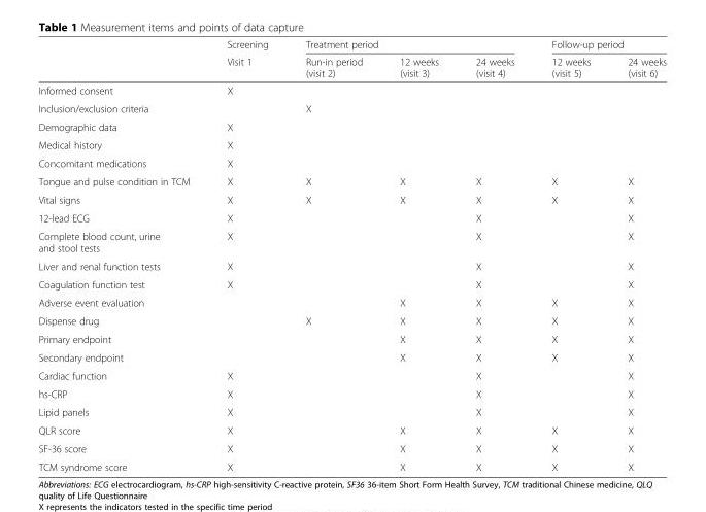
<table><thead><tr><td rowspan="2"></td><td rowspan="2">Screening Visit 1</td><td colspan="3">Treatment period</td><td colspan="2">Follow-up period</td></tr><tr><td>Run-in period (visit 2)</td><td>12 weeks (visit 3)</td><td>24 weeks (visit 4)</td><td>12 weeks (visit 5)</td><td>24 weeks (visit 6)</td></tr></thead><tbody><tr><td>Informed consent</td><td>X</td><td></td><td></td><td></td><td></td><td></td></tr><tr><td>Inclusion/exclusion criteria</td><td></td><td>X</td><td></td><td></td><td></td><td></td></tr><tr><td>Demographic data</td><td>X</td><td></td><td></td><td></td><td></td><td></td></tr><tr><td>Medical history</td><td>X</td><td></td><td></td><td></td><td></td><td></td></tr><tr><td>Concomitant medications</td><td>X</td><td></td><td></td><td></td><td></td><td></td></tr><tr><td>Tongue and pulse condition in TCM</td><td>X</td><td>X</td><td>X</td><td>X</td><td>X</td><td>X</td></tr><tr><td>Vital signs</td><td>X</td><td>X</td><td>X</td><td>X</td><td>X</td><td>X</td></tr><tr><td>12-lead ECG</td><td>X</td><td></td><td></td><td>X</td><td></td><td>X</td></tr><tr><td>Complete blood count, urine and stool tests</td><td>X</td><td></td><td></td><td>X</td><td></td><td>X</td></tr><tr><td>Liver and renal function tests</td><td>X</td><td></td><td></td><td>X</td><td></td><td>X</td></tr><tr><td>Coagulation function test</td><td>X</td><td></td><td></td><td>X</td><td></td><td>X</td></tr><tr><td>Adverse event evaluation</td><td></td><td></td><td>X</td><td>X</td><td>X</td><td>X</td></tr><tr><td>Dispense drug</td><td></td><td>X</td><td>X</td><td>X</td><td>X</td><td>X</td></tr><tr><td>Primary endpoint</td><td></td><td></td><td>X</td><td>X</td><td>X</td><td>X</td></tr><tr><td>Secondary endpoint</td><td></td><td></td><td>X</td><td>X</td><td>X</td><td>X</td></tr><tr><td>Cardiac function</td><td>X</td><td></td><td></td><td>X</td><td></td><td>X</td></tr><tr><td>hs-CRP</td><td>X</td><td></td><td></td><td>X</td><td></td><td>X</td></tr><tr><td>Lipid panels</td><td>X</td><td></td><td></td><td>X</td><td></td><td>X</td></tr><tr><td>QLR score</td><td>X</td><td></td><td>X</td><td>X</td><td>X</td><td>X</td></tr><tr><td>SF-36 score</td><td>X</td><td></td><td>X</td><td>X</td><td>X</td><td>X</td></tr><tr><td>TCM syndrome score</td><td>X</td><td></td><td>X</td><td>X</td><td>X</td><td>X</td></tr></tbody></table>